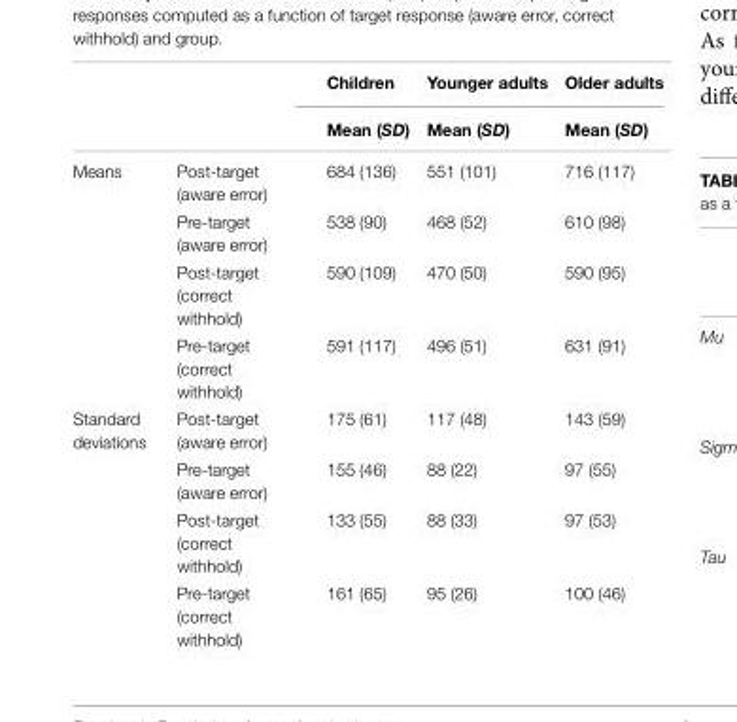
<table><thead><tr><td rowspan="2"></td><td rowspan="2"></td><td rowspan="2">Children Mean (SD)</td><td rowspan="2">Younger adults Mean (SD)</td><td rowspan="2">Older adults Mean (SD)</td></tr><tr></tr></thead><tbody><tr><td rowspan="4">Means</td><td>Post-target (aware error)</td><td>684 (136)</td><td>551 (101)</td><td>716 (117)</td></tr><tr><td>Pre-target (aware error)</td><td>538 (90)</td><td>468 (52)</td><td>610 (98)</td></tr><tr><td>Post-target (correct withhold)</td><td>590 (109)</td><td>470 (50)</td><td>590 (95)</td></tr><tr><td>Pre-target (correct withhold)</td><td>591 (117)</td><td>496 (51)</td><td>631 (91)</td></tr><tr><td rowspan="4">Standard deviations</td><td>Post-target (aware error)</td><td>175 (61)</td><td>117 (48)</td><td>143 (59)</td></tr><tr><td>Pre-target (aware error)</td><td>155 (46)</td><td>88 (22)</td><td>97 (55)</td></tr><tr><td>Post-target (correct withhold)</td><td>133 (55)</td><td>88 (33)</td><td>97 (53)</td></tr><tr><td>Pre-target (correct withhold)</td><td>161 (65)</td><td>95 (26)</td><td>100 (46)</td></tr></tbody></table>